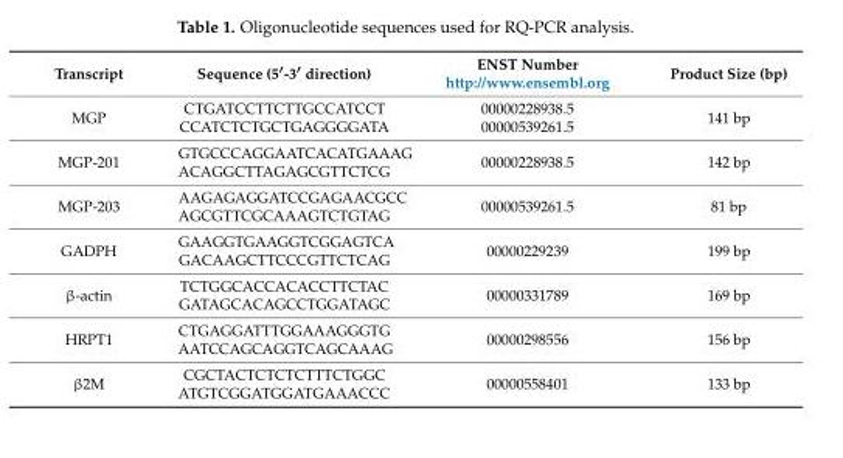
<table><thead><tr><td>Transcript</td><td>Sequence (5′-3′ direction)</td><td>ENST Number http://www.ensembl.org</td><td>Product Size (bp)</td></tr></thead><tbody><tr><td>MGP</td><td>CTGATCCTTCTTGCCATCCT CCATCTCTGCTGAGGGGATA</td><td>00000228938.5 00000539261.5</td><td>141 bp</td></tr><tr><td>MGP-201</td><td>GTGCCCAGGAATCACATGAAAG ACAGGCTTAGAGCGTTCTCG</td><td>00000228938.5</td><td>142 bp</td></tr><tr><td>MGP-203</td><td>AAGAGAGGATCCGAGAACGCC AGCGTTCGCAAAGTCTGTAG</td><td>00000539261.5</td><td>81 bp</td></tr><tr><td>GADPH</td><td>GAAGGTGAAGGTCGGAGTCA GACAAGCTTCCCGTTCTCAG</td><td>00000229239</td><td>199 bp</td></tr><tr><td>β-actin</td><td>TCTGGCACCACACCTTCTAC GATAGCACAGCCTGGATAGC</td><td>00000331789</td><td>169 bp</td></tr><tr><td>HRPT1</td><td>CTGAGGATTTGGAAAGGGTG AATCCAGCAGGTCAGCAAAG</td><td>00000298556</td><td>156 bp</td></tr><tr><td>β2M</td><td>CGCTACTCTCTCTTTCTGGC ATGTCGGATGGATGAAACCC</td><td>00000558401</td><td>133 bp</td></tr></tbody></table>